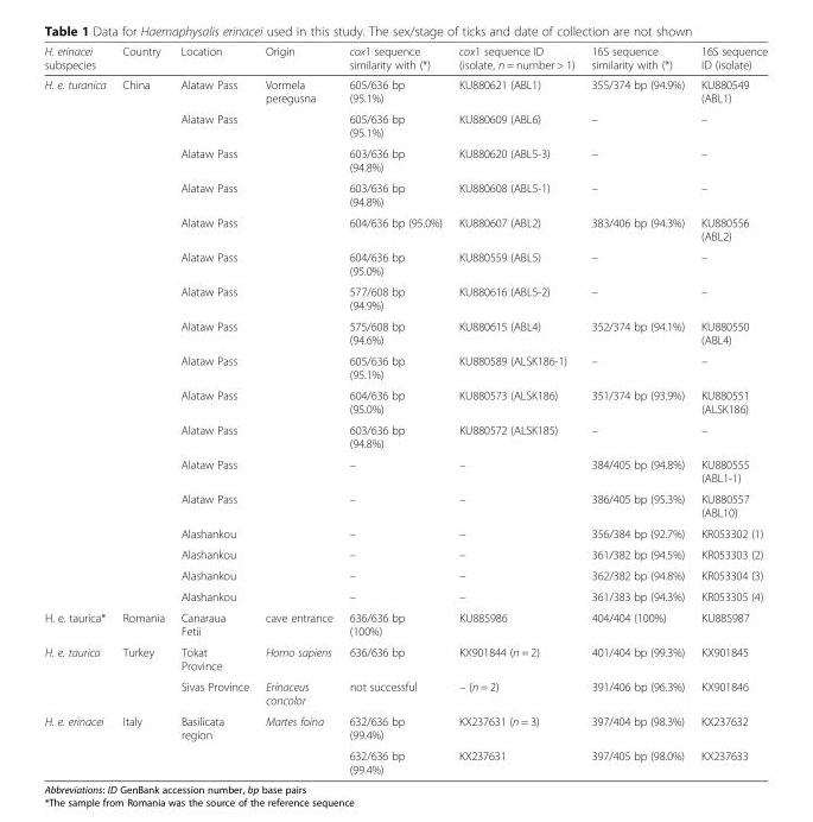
<table><thead><tr><td>H. erinacei subspecies</td><td>Country</td><td>Location</td><td>Origin</td><td>cox1 sequence similarity with (*)</td><td>cox1 sequence ID (isolate, n = number &gt; 1)</td><td>16S sequence similarity with (*)</td><td>16S sequence ID (isolate)</td></tr></thead><tbody><tr><td rowspan="17">H. e. turanica</td><td rowspan="17">China</td><td>Alataw Pass</td><td rowspan="17">Vormela peregusna</td><td>605/636 bp (95.1%)</td><td>KU880621 (ABL1)</td><td>355/374 bp (94.9%)</td><td>KU880549 (ABL1)</td></tr><tr><td>Alataw Pass</td><td>605/636 bp (95.1%)</td><td>KU880609 (ABL6)</td><td>–</td><td>–</td></tr><tr><td>Alataw Pass</td><td>603/636 bp (94.8%)</td><td>KU880620 (ABL5-3)</td><td>–</td><td>–</td></tr><tr><td>Alataw Pass</td><td>603/636 bp (94.8%)</td><td>KU880608 (ABL5-1)</td><td>–</td><td>–</td></tr><tr><td>Alataw Pass</td><td>604/636 bp (95.0%)</td><td>KU880607 (ABL2)</td><td>383/406 bp (94.3%)</td><td>KU880556 (ABL2)</td></tr><tr><td>Alataw Pass</td><td>604/636 bp (95.0%)</td><td>KU880559 (ABL5)</td><td>–</td><td>–</td></tr><tr><td>Alataw Pass</td><td>577/608 bp (94.9%)</td><td>KU880616 (ABL5-2)</td><td>–</td><td>–</td></tr><tr><td>Alataw Pass</td><td>575/608 bp (94.6%)</td><td>KU880615 (ABL4)</td><td>352/374 bp (94.1%)</td><td>KU880550 (ABL4)</td></tr><tr><td>Alataw Pass</td><td>605/636 bp (95.1%)</td><td>KU880589 (ALSK186-1)</td><td>–</td><td>–</td></tr><tr><td>Alataw Pass</td><td>604/636 bp (95.0%)</td><td>KU880573 (ALSK186)</td><td>351/374 bp (93.9%)</td><td>KU880551 (ALSK186)</td></tr><tr><td>Alataw Pass</td><td>603/636 bp (94.8%)</td><td>KU880572 (ALSK185)</td><td>–</td><td>–</td></tr><tr><td>Alataw Pass</td><td>–</td><td>–</td><td>384/405 bp (94.8%)</td><td>KU880555 (ABL1-1)</td></tr><tr><td>Alataw Pass</td><td>–</td><td>–</td><td>386/405 bp (95.3%)</td><td>KU880557 (ABL10)</td></tr><tr><td>Alashankou</td><td>–</td><td>–</td><td>356/384 bp (92.7%)</td><td>KR053302 (1)</td></tr><tr><td>Alashankou</td><td>–</td><td>–</td><td>361/382 bp (94.5%)</td><td>KR053303 (2)</td></tr><tr><td>Alashankou</td><td>–</td><td>–</td><td>362/382 bp (94.8%)</td><td>KR053304 (3)</td></tr><tr><td>Alashankou</td><td>–</td><td>–</td><td>361/383 bp (94.3%)</td><td>KR053305 (4)</td></tr><tr><td>H. e. taurica*</td><td>Romania</td><td>Canaraua Fetii</td><td>cave entrance</td><td>636/636 bp (100%)</td><td>KU885986</td><td>404/404 (100%)</td><td>KU885987</td></tr><tr><td rowspan="2">H. e. taurica</td><td rowspan="2">Turkey</td><td>Tokat Province</td><td>Homo sapiens</td><td>636/636 bp</td><td>KX901844 (n = 2)</td><td>401/404 bp (99.3%)</td><td>KX901845</td></tr><tr><td>Sivas Province</td><td>Erinaceus concolor</td><td>not successful</td><td>– (n = 2)</td><td>391/406 bp (96.3%)</td><td>KX901846</td></tr><tr><td rowspan="2">H. e. erinacei</td><td rowspan="2">Italy</td><td rowspan="2">Basilicata region</td><td rowspan="2">Martes foina</td><td>632/636 bp (99.4%)</td><td>KX237631 (n = 3)</td><td>397/404 bp (98.3%)</td><td>KX237632</td></tr><tr><td>632/636 bp (99.4%)</td><td>KX237631</td><td>397/405 bp (98.0%)</td><td>KX237633</td></tr></tbody></table>